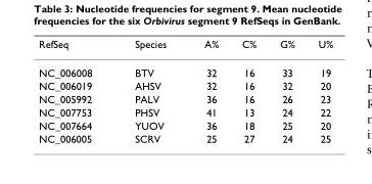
<table><thead><tr><td>RefSeq</td><td>Species</td><td>A%</td><td>C%</td><td>G%</td><td>U%</td></tr></thead><tbody><tr><td>NC_006008</td><td>BTV</td><td>32</td><td>16</td><td>33</td><td>19</td></tr><tr><td>NC_006019</td><td>AHSV</td><td>32</td><td>16</td><td>32</td><td>20</td></tr><tr><td>NC_005992</td><td>PALV</td><td>36</td><td>16</td><td>26</td><td>23</td></tr><tr><td>NC_007753</td><td>PHSV</td><td>41</td><td>13</td><td>24</td><td>22</td></tr><tr><td>NC_007664</td><td>YUOV</td><td>36</td><td>18</td><td>25</td><td>20</td></tr><tr><td>NC_006005</td><td>SCRV</td><td>25</td><td>27</td><td>24</td><td>25</td></tr></tbody></table>